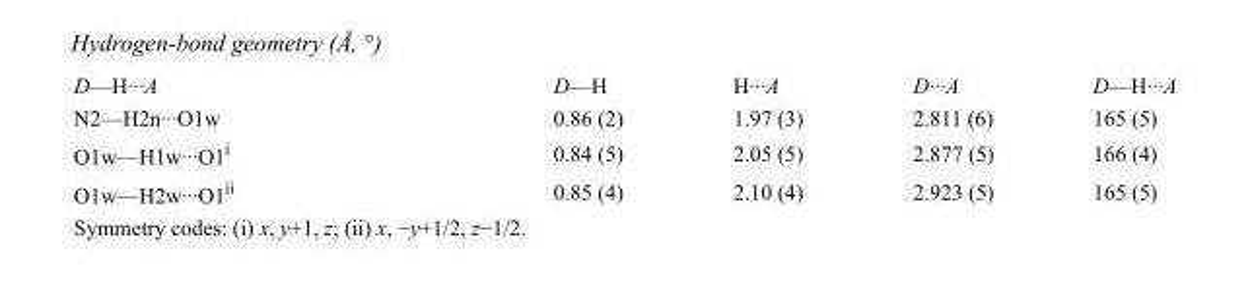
<table><tbody><tr><td>D—H···A</td><td>D—H</td><td>H···A</td><td>D···A</td><td>D—H···A</td></tr><tr><td>N2—H2n···O1w</td><td>0.86 (2)</td><td>1.97 (3)</td><td>2.811 (6)</td><td>165 (5)</td></tr><tr><td>O1w—H1w···O1<sup>i</sup></td><td>0.84 (5)</td><td>2.05 (5)</td><td>2.877 (5)</td><td>166 (4)</td></tr><tr><td>O1w—H2w···O1<sup>ii</sup></td><td>0.85 (4)</td><td>2.10 (4)</td><td>2.923 (5)</td><td>165 (5)</td></tr></tbody></table>